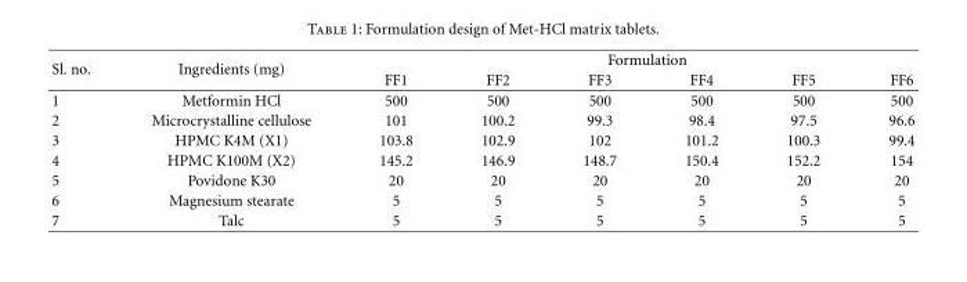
<table><thead><tr><td rowspan="2">Sl. no.</td><td rowspan="2">Ingredients (mg)</td><td colspan="6">Formulation</td></tr><tr><td>FF1</td><td>FF2</td><td>FF3</td><td>FF4</td><td>FF5</td><td>FF6</td></tr></thead><tbody><tr><td>1</td><td>Metformin HCl</td><td>500</td><td>500</td><td>500</td><td>500</td><td>500</td><td>500</td></tr><tr><td>2</td><td>Microcrystalline cellulose</td><td>101</td><td>100.2</td><td>99.3</td><td>98.4</td><td>97.5</td><td>96.6</td></tr><tr><td>3</td><td>HPMC K4M (X1)</td><td>103.8</td><td>102.9</td><td>102</td><td>101.2</td><td>100.3</td><td>99.4</td></tr><tr><td>4</td><td>HPMC K100M (X2)</td><td>145.2</td><td>146.9</td><td>148.7</td><td>150.4</td><td>152.2</td><td>154</td></tr><tr><td>5</td><td>Povidone K30</td><td>20</td><td>20</td><td>20</td><td>20</td><td>20</td><td>20</td></tr><tr><td>6</td><td>Magnesium stearate</td><td>5</td><td>5</td><td>5</td><td>5</td><td>5</td><td>5</td></tr><tr><td>7</td><td>Talc</td><td>5</td><td>5</td><td>5</td><td>5</td><td>5</td><td>5</td></tr></tbody></table>